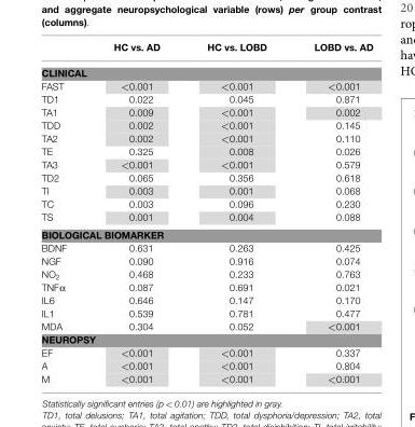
<table><thead><tr><td></td><td>HC vs. AD</td><td>HC vs. LOBD</td><td>LOBD vs. AD</td></tr></thead><tbody><tr><td colspan="4">CLINICAL</td></tr><tr><td>FAST</td><td>&lt;0.001</td><td>&lt;0.001</td><td>&lt;0.001</td></tr><tr><td>TD1</td><td>0.022</td><td>0.045</td><td>0.871</td></tr><tr><td>TA1</td><td>0.009</td><td>&lt;0.001</td><td>0.002</td></tr><tr><td>TDD</td><td>0.002</td><td>&lt;0.001</td><td>0.145</td></tr><tr><td>TA2</td><td>0.002</td><td>&lt;0.001</td><td>0.110</td></tr><tr><td>TE</td><td>0.325</td><td>0.008</td><td>0.026</td></tr><tr><td>TA3</td><td>&lt;0.001</td><td>&lt;0.001</td><td>0.579</td></tr><tr><td>TD2</td><td>0.065</td><td>0.356</td><td>0.618</td></tr><tr><td>TI</td><td>0.003</td><td>0.001</td><td>0.068</td></tr><tr><td>TC</td><td>0.003</td><td>0.096</td><td>0.230</td></tr><tr><td>TS</td><td>0.001</td><td>0.004</td><td>0.088</td></tr><tr><td colspan="4">BIOLOGICAL BIOMARKER</td></tr><tr><td>BDNF</td><td>0.631</td><td>0.263</td><td>0.425</td></tr><tr><td>NGF</td><td>0.090</td><td>0.916</td><td>0.074</td></tr><tr><td>NO<sub>2</sub></td><td>0.468</td><td>0.233</td><td>0.763</td></tr><tr><td>TNFα</td><td>0.087</td><td>0.691</td><td>0.021</td></tr><tr><td>IL6</td><td>0.646</td><td>0.147</td><td>0.170</td></tr><tr><td>IL1</td><td>0.539</td><td>0.781</td><td>0.477</td></tr><tr><td>MDA</td><td>0.304</td><td>0.052</td><td>&lt;0.001</td></tr><tr><td colspan="4">NEUROPSY</td></tr><tr><td>EF</td><td>&lt;0.001</td><td>&lt;0.001</td><td>0.337</td></tr><tr><td>A</td><td>&lt;0.001</td><td>&lt;0.001</td><td>0.804</td></tr><tr><td>M</td><td>&lt;0.001</td><td>&lt;0.001</td><td>&lt;0.001</td></tr></tbody></table>